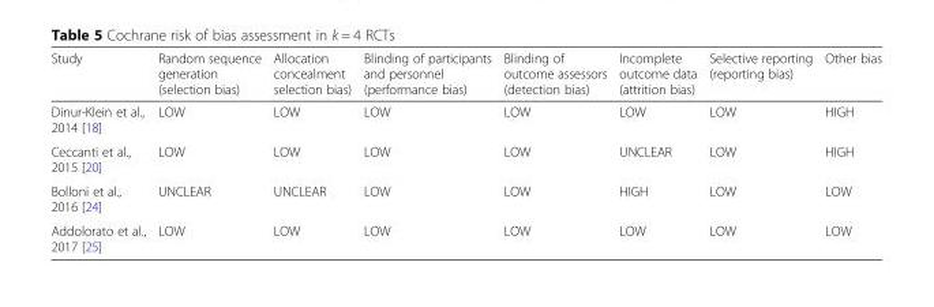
<table><thead><tr><td>Study</td><td>Random sequence generation (selection bias)</td><td>Allocation concealment selection bias)</td><td>Blinding of participants and personnel (performance bias)</td><td>Blinding of outcome assessors (detection bias)</td><td>Incomplete outcome data (attrition bias)</td><td>Selective reporting (reporting bias)</td><td>Other bias</td></tr></thead><tbody><tr><td>Dinur-Klein et al., 2014 [18]</td><td>LOW</td><td>LOW</td><td>LOW</td><td>LOW</td><td>LOW</td><td>LOW</td><td>HIGH</td></tr><tr><td>Ceccanti et al., 2015 [20]</td><td>LOW</td><td>LOW</td><td>LOW</td><td>LOW</td><td>UNCLEAR</td><td>LOW</td><td>HIGH</td></tr><tr><td>Bolloni et al., 2016 [24]</td><td>UNCLEAR</td><td>UNCLEAR</td><td>LOW</td><td>LOW</td><td>HIGH</td><td>LOW</td><td>LOW</td></tr><tr><td>Addolorato et al., 2017 [25]</td><td>LOW</td><td>LOW</td><td>LOW</td><td>LOW</td><td>LOW</td><td>LOW</td><td>LOW</td></tr></tbody></table>